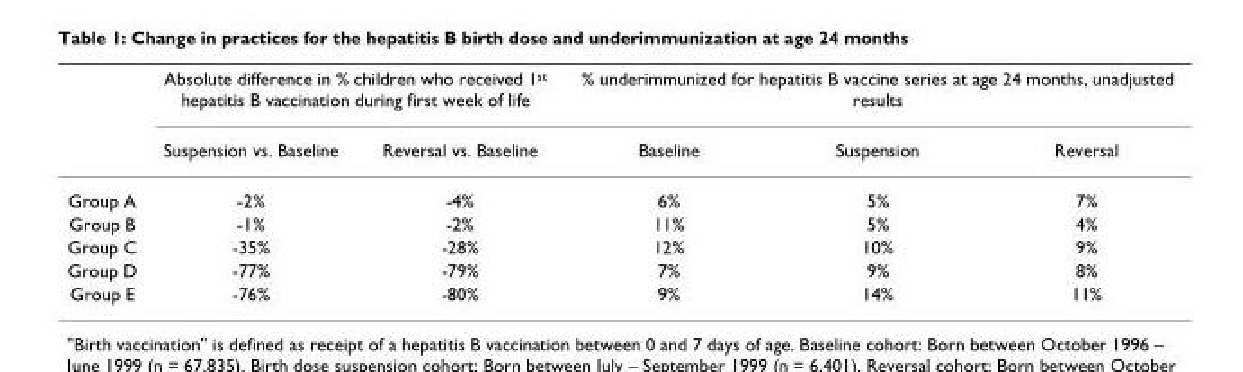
<table><thead><tr><td rowspan="2"></td><td colspan="2">Absolute difference in % children who received 1<sup>st</sup> hepatitis B vaccination during first week of life</td><td colspan="3">% underimmunized for hepatitis B vaccine series at age 24 months, unadjusted results</td></tr><tr><td>Suspension vs. Baseline</td><td>Reversal vs. Baseline</td><td>Baseline</td><td>Suspension</td><td>Reversal</td></tr></thead><tbody><tr><td>Group A</td><td>-2%</td><td>-4%</td><td>6%</td><td>5%</td><td>7%</td></tr><tr><td>Group B</td><td>-1%</td><td>-2%</td><td>11%</td><td>5%</td><td>4%</td></tr><tr><td>Group C</td><td>-35%</td><td>-28%</td><td>12%</td><td>10%</td><td>9%</td></tr><tr><td>Group D</td><td>-77%</td><td>-79%</td><td>7%</td><td>9%</td><td>8%</td></tr><tr><td>Group E</td><td>-76%</td><td>-80%</td><td>9%</td><td>14%</td><td>11%</td></tr></tbody></table>